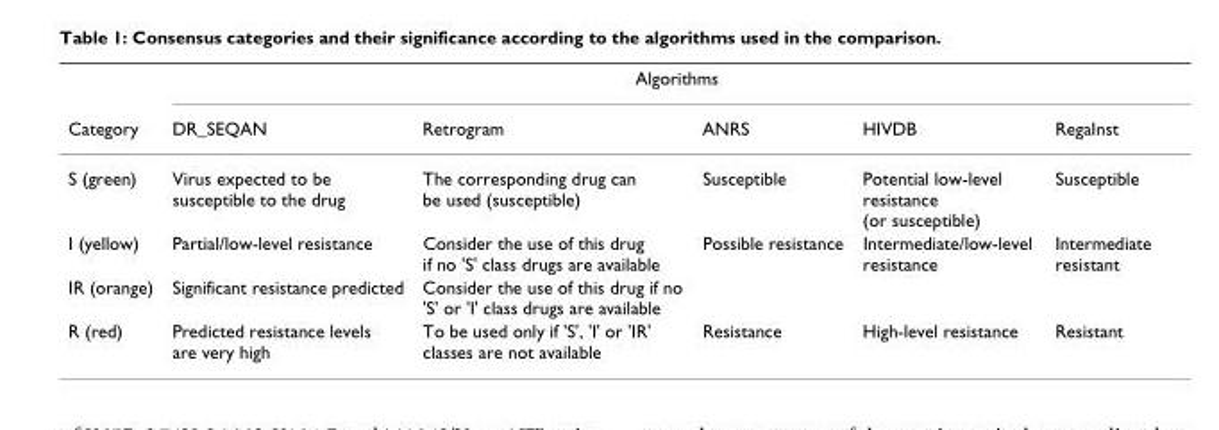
<table><thead><tr><td rowspan="2">Category</td><td colspan="5">Algorithms</td></tr><tr><td>DR_SEQAN</td><td>Retrogram</td><td>ANRS</td><td>HIVDB</td><td>RegaInst</td></tr></thead><tbody><tr><td>S (green)</td><td>Virus expected to be susceptible to the drug</td><td>The corresponding drug can be used (susceptible)</td><td>Susceptible</td><td>Potential low-level resistance (or susceptible)</td><td>Susceptible</td></tr><tr><td>I (yellow)</td><td>Partial/low-level resistance</td><td>Consider the use of this drug if no &#x27;S&#x27; class drugs are available</td><td>Possible resistance</td><td>Intermediate/low-level resistance</td><td>Intermediate resistant</td></tr><tr><td>IR (orange)</td><td>Significant resistance predicted</td><td>Consider the use of this drug if no &#x27;S&#x27; or &#x27;I&#x27; class drugs are available</td><td></td><td></td><td></td></tr><tr><td>R (red)</td><td>Predicted resistance levels are very high</td><td>To be used only if &#x27;S&#x27;, &#x27;I&#x27; or &#x27;IR&#x27; classes are not available</td><td>Resistance</td><td>High-level resistance</td><td>Resistant</td></tr></tbody></table>